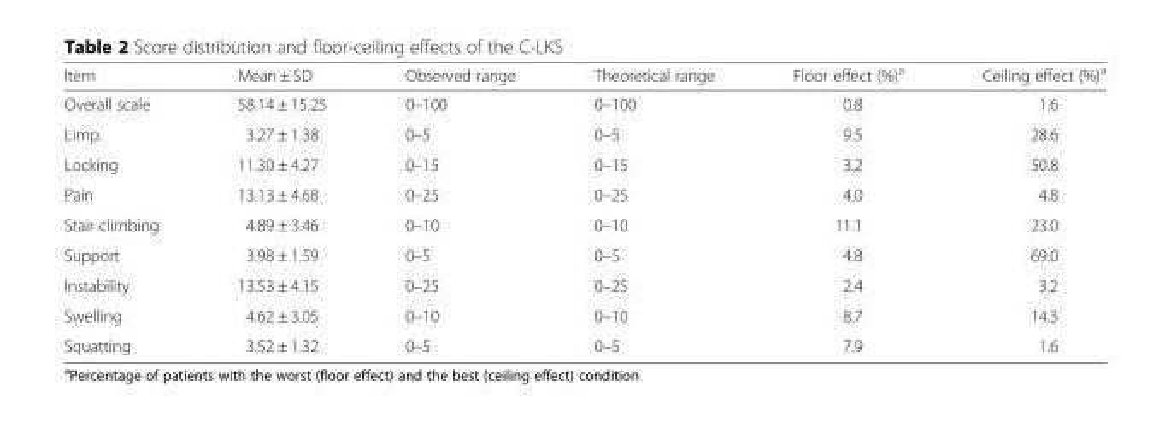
<table><thead><tr><td>Item</td><td>Mean ± SD</td><td>Observed range</td><td>Theoretical range</td><td>Floor effect (%)<sup>a</sup></td><td>Ceiling effect (%)<sup>a</sup></td></tr></thead><tbody><tr><td>Overall scale</td><td>58.14 ± 15.25</td><td>0–100</td><td>0–100</td><td>0.8</td><td>1.6</td></tr><tr><td>Limp</td><td>3.27 ± 1.38</td><td>0–5</td><td>0–5</td><td>9.5</td><td>28.6</td></tr><tr><td>Locking</td><td>11.30 ± 4.27</td><td>0–15</td><td>0–15</td><td>3.2</td><td>50.8</td></tr><tr><td>Pain</td><td>13.13 ± 4.68</td><td>0–25</td><td>0–25</td><td>4.0</td><td>4.8</td></tr><tr><td>Stair climbing</td><td>4.89 ± 3.46</td><td>0–10</td><td>0–10</td><td>11.1</td><td>23.0</td></tr><tr><td>Support</td><td>3.98 ± 1.59</td><td>0–5</td><td>0–5</td><td>4.8</td><td>69.0</td></tr><tr><td>Instability</td><td>13.53 ± 4.15</td><td>0–25</td><td>0–25</td><td>2.4</td><td>3.2</td></tr><tr><td>Swelling</td><td>4.62 ± 3.05</td><td>0–10</td><td>0–10</td><td>8.7</td><td>14.3</td></tr><tr><td>Squatting</td><td>3.52 ± 1.32</td><td>0–5</td><td>0–5</td><td>7.9</td><td>1.6</td></tr></tbody></table>